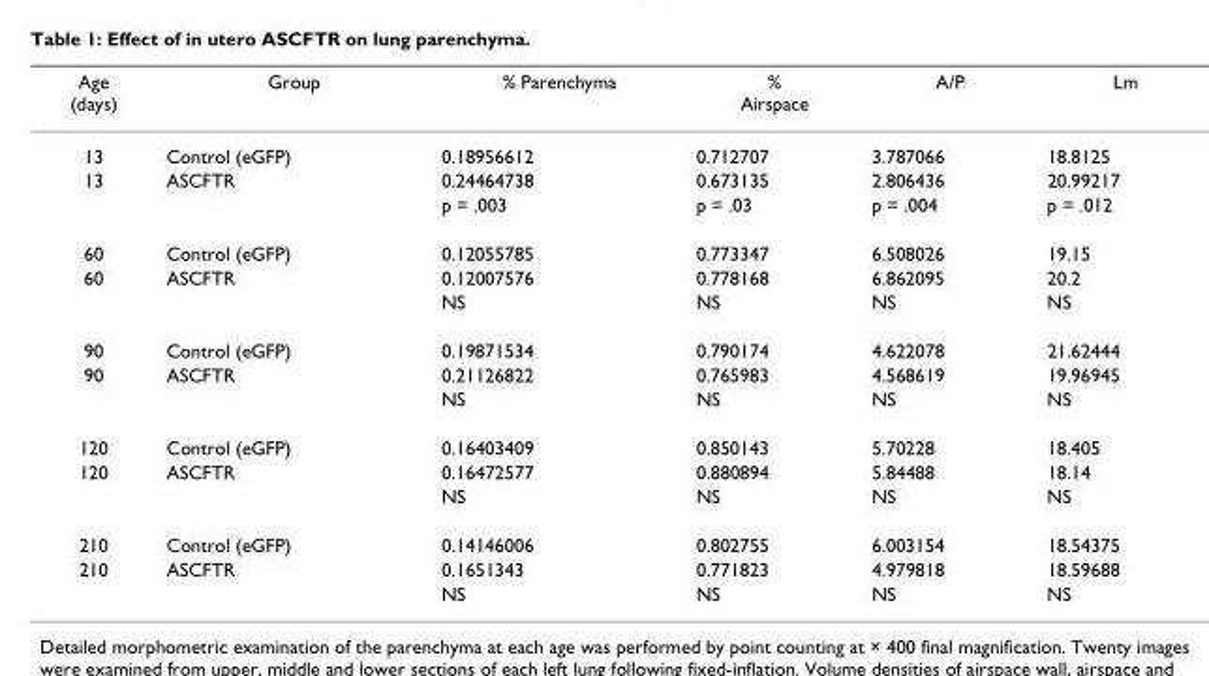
<table><thead><tr><td>Age (days)</td><td>Group</td><td>% Parenchyma</td><td>% Airspace</td><td>A/P</td><td>Lm</td></tr></thead><tbody><tr><td>13</td><td>Control (eGFP)</td><td>0.18956612</td><td>0.712707</td><td>3.787066</td><td>18.8125</td></tr><tr><td rowspan="2">13</td><td>ASCFTR</td><td>0.24464738</td><td>0.673135</td><td>2.806436</td><td>20.99217</td></tr><tr><td></td><td>p = .003</td><td>p = .03</td><td>p = .004</td><td>p = .012</td></tr><tr><td>60</td><td>Control (eGFP)</td><td>0.12055785</td><td>0.773347</td><td>6.508026</td><td>19.15</td></tr><tr><td rowspan="2">60</td><td>ASCFTR</td><td>0.12007576</td><td>0.778168</td><td>6.862095</td><td>20.2</td></tr><tr><td></td><td>NS</td><td>NS</td><td>NS</td><td>NS</td></tr><tr><td>90</td><td>Control (eGFP)</td><td>0.19871534</td><td>0.790174</td><td>4.622078</td><td>21.62444</td></tr><tr><td rowspan="2">90</td><td>ASCFTR</td><td>0.21126822</td><td>0.765983</td><td>4.568619</td><td>19.96945</td></tr><tr><td></td><td>NS</td><td>NS</td><td>NS</td><td>NS</td></tr><tr><td>120</td><td>Control (eGFP)</td><td>0.16403409</td><td>0.850143</td><td>5.70228</td><td>18.405</td></tr><tr><td rowspan="2">120</td><td>ASCFTR</td><td>0.16472577</td><td>0.880894</td><td>5.84488</td><td>18.14</td></tr><tr><td></td><td>NS</td><td>NS</td><td>NS</td><td>NS</td></tr><tr><td>210</td><td>Control (eGFP)</td><td>0.14146006</td><td>0.802755</td><td>6.003154</td><td>18.54375</td></tr><tr><td rowspan="2">210</td><td>ASCFTR</td><td>0.1651343</td><td>0.771823</td><td>4.979818</td><td>18.59688</td></tr><tr><td></td><td>NS</td><td>NS</td><td>NS</td><td>NS</td></tr></tbody></table>